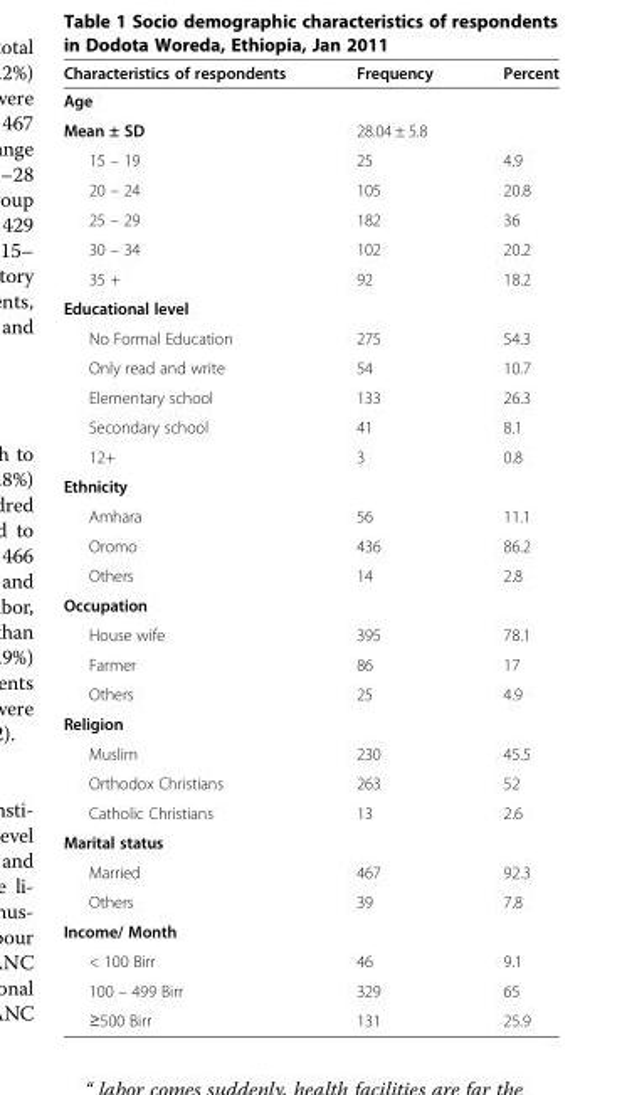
<table><thead><tr><td>Characteristics of respondents</td><td>Frequency</td><td>Percent</td></tr></thead><tbody><tr><td colspan="3">Age</td></tr><tr><td>Mean ± SD</td><td>28.04 ± 5.8</td><td></td></tr><tr><td>15 – 19</td><td>25</td><td>4.9</td></tr><tr><td>20 – 24</td><td>105</td><td>20.8</td></tr><tr><td>25 – 29</td><td>182</td><td>36</td></tr><tr><td>30 – 34</td><td>102</td><td>20.2</td></tr><tr><td>35 +</td><td>92</td><td>18.2</td></tr><tr><td colspan="3">Educational level</td></tr><tr><td>No Formal Education</td><td>275</td><td>54.3</td></tr><tr><td>Only read and write</td><td>54</td><td>10.7</td></tr><tr><td>Elementary school</td><td>133</td><td>26.3</td></tr><tr><td>Secondary school</td><td>41</td><td>8.1</td></tr><tr><td>12+</td><td>3</td><td>0.8</td></tr><tr><td colspan="3">Ethnicity</td></tr><tr><td>Amhara</td><td>56</td><td>11.1</td></tr><tr><td>Oromo</td><td>436</td><td>86.2</td></tr><tr><td>Others</td><td>14</td><td>2.8</td></tr><tr><td colspan="3">Occupation</td></tr><tr><td>House wife</td><td>395</td><td>78.1</td></tr><tr><td>Farmer</td><td>86</td><td>17</td></tr><tr><td>Others</td><td>25</td><td>4.9</td></tr><tr><td colspan="3">Religion</td></tr><tr><td>Muslim</td><td>230</td><td>45.5</td></tr><tr><td>Orthodox Christians</td><td>263</td><td>52</td></tr><tr><td>Catholic Christians</td><td>13</td><td>2.6</td></tr><tr><td colspan="3">Marital status</td></tr><tr><td>Married</td><td>467</td><td>92.3</td></tr><tr><td>Others</td><td>39</td><td>7.8</td></tr><tr><td colspan="3">Income/ Month</td></tr><tr><td>&lt; 100 Birr</td><td>46</td><td>9.1</td></tr><tr><td>100 – 499 Birr</td><td>329</td><td>65</td></tr><tr><td>≥500 Birr</td><td>131</td><td>25.9</td></tr></tbody></table>